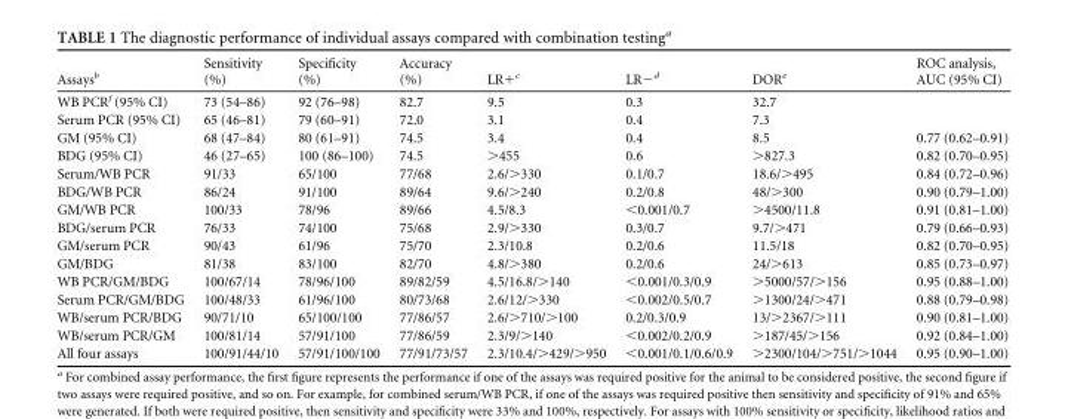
<table><thead><tr><td>Assays<sup>b</sup></td><td>Sensitivity (%)</td><td>Specificity (%)</td><td>Accuracy (%)</td><td>LR+<sup>c</sup></td><td>LR−<sup>d</sup></td><td>DOR<sup>e</sup></td><td>ROC analysis, AUC (95% CI)</td></tr></thead><tbody><tr><td>WB PCR<sup>f</sup> (95% CI)</td><td>73 (54–86)</td><td>92 (76–98)</td><td>82.7</td><td>9.5</td><td>0.3</td><td>32.7</td><td></td></tr><tr><td>Serum PCR (95% CI)</td><td>65 (46–81)</td><td>79 (60–91)</td><td>72.0</td><td>3.1</td><td>0.4</td><td>7.3</td><td></td></tr><tr><td>GM (95% CI)</td><td>68 (47–84)</td><td>80 (61–91)</td><td>74.5</td><td>3.4</td><td>0.4</td><td>8.5</td><td>0.77 (0.62–0.91)</td></tr><tr><td>BDG (95% CI)</td><td>46 (27–65)</td><td>100 (86–100)</td><td>74.5</td><td>&gt;455</td><td>0.6</td><td>&gt;827.3</td><td>0.82 (0.70–0.95)</td></tr><tr><td>Serum/WB PCR</td><td>91/33</td><td>65/100</td><td>77/68</td><td>2.6/&gt;330</td><td>0.1/0.7</td><td>18.6/&gt;495</td><td>0.84 (0.72–0.96)</td></tr><tr><td>BDG/WB PCR</td><td>86/24</td><td>91/100</td><td>89/64</td><td>9.6/&gt;240</td><td>0.2/0.8</td><td>48/&gt;300</td><td>0.90 (0.79–1.00)</td></tr><tr><td>GM/WB PCR</td><td>100/33</td><td>78/96</td><td>89/66</td><td>4.5/8.3</td><td>&lt;0.001/0.7</td><td>&gt;4500/11.8</td><td>0.91 (0.81–1.00)</td></tr><tr><td>BDG/serum PCR</td><td>76/33</td><td>74/100</td><td>75/68</td><td>2.9/&gt;330</td><td>0.3/0.7</td><td>9.7/&gt;471</td><td>0.79 (0.66–0.93)</td></tr><tr><td>GM/serum PCR</td><td>90/43</td><td>61/96</td><td>75/70</td><td>2.3/10.8</td><td>0.2/0.6</td><td>11.5/18</td><td>0.82 (0.70–0.95)</td></tr><tr><td>GM/BDG</td><td>81/38</td><td>83/100</td><td>82/70</td><td>4.8/&gt;380</td><td>0.2/0.6</td><td>24/&gt;613</td><td>0.85 (0.73–0.97)</td></tr><tr><td>WB PCR/GM/BDG</td><td>100/67/14</td><td>78/96/100</td><td>89/82/59</td><td>4.5/16.8/&gt;140</td><td>&lt;0.001/0.3/0.9</td><td>&gt;5000/57/&gt;156</td><td>0.95 (0.88–1.00)</td></tr><tr><td>Serum PCR/GM/BDG</td><td>100/48/33</td><td>61/96/100</td><td>80/73/68</td><td>2.6/12/&gt;330</td><td>&lt;0.002/0.5/0.7</td><td>&gt;1300/24/&gt;471</td><td>0.88 (0.79–0.98)</td></tr><tr><td>WB/serum PCR/BDG</td><td>90/71/10</td><td>65/100/100</td><td>77/86/57</td><td>2.6/&gt;710/&gt;100</td><td>0.2/0.3/0.9</td><td>13/&gt;2367/&gt;111</td><td>0.90 (0.81–1.00)</td></tr><tr><td>WB/serum PCR/GM</td><td>100/81/14</td><td>57/91/100</td><td>77/86/59</td><td>2.3/9/&gt;140</td><td>&lt;0.002/0.2/0.9</td><td>&gt;187/45/&gt;156</td><td>0.92 (0.84–1.00)</td></tr><tr><td>All four assays</td><td>100/91/44/10</td><td>57/91/100/100</td><td>77/91/73/57</td><td>2.3/10.4/&gt;429/&gt;950</td><td>&lt;0.001/0.1/0.6/0.9</td><td>&gt;2300/104/&gt;751/&gt;1044</td><td>0.95 (0.90–1.00)</td></tr></tbody></table>